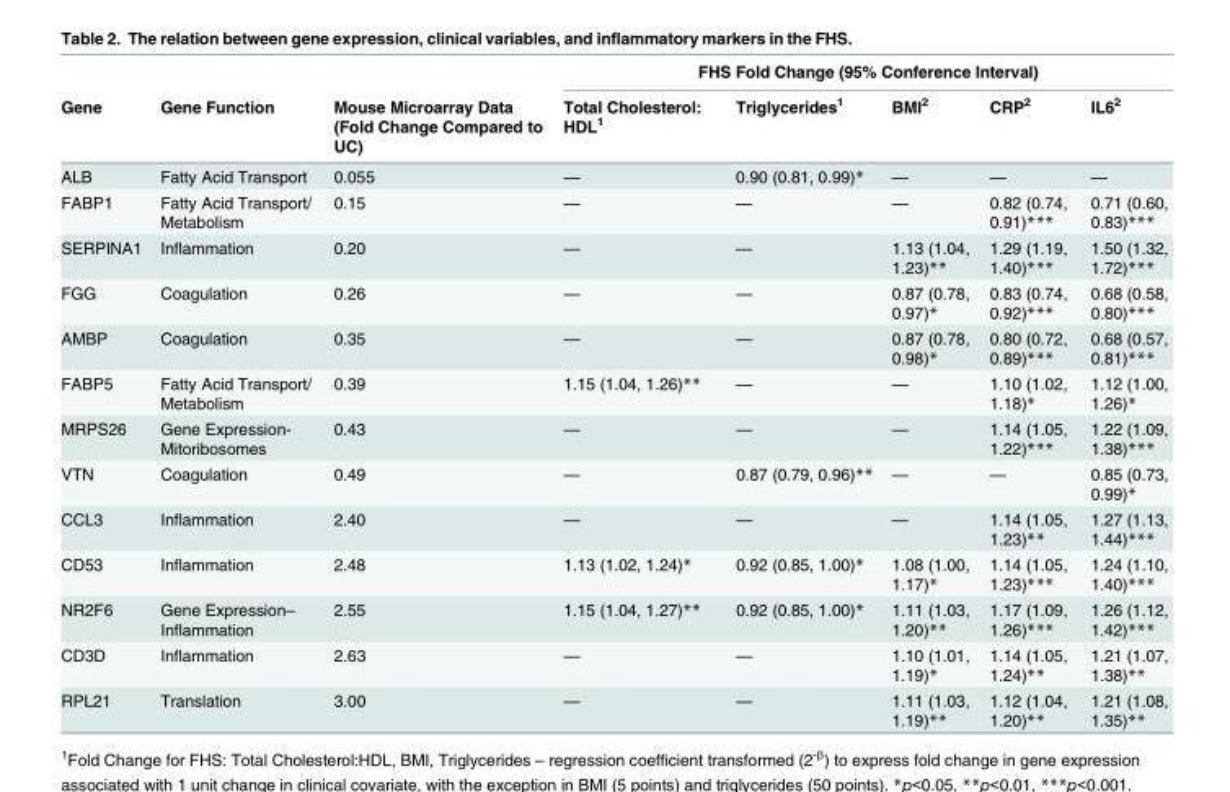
<table><thead><tr><td rowspan="2">Gene</td><td rowspan="2">Gene Function</td><td rowspan="2">Mouse Microarray Data (Fold Change Compared to UC)</td><td colspan="5">FHS Fold Change (95% Conference Interval)</td></tr><tr><td>Total Cholesterol: HDL<sup>1</sup></td><td>Triglycerides<sup>1</sup></td><td>BMI<sup>2</sup></td><td>CRP<sup>2</sup></td><td>IL6<sup>2</sup></td></tr></thead><tbody><tr><td>ALB</td><td>Fatty Acid Transport</td><td>0.055</td><td>—</td><td>0.90 (0.81, 0.99)*</td><td>—</td><td>—</td><td>—</td></tr><tr><td>FABP1</td><td>Fatty Acid Transport/ Metabolism</td><td>0.15</td><td>—</td><td>—</td><td>—</td><td>0.82 (0.74, 0.91)***</td><td>0.71 (0.60, 0.83)***</td></tr><tr><td>SERPINA1</td><td>Inflammation</td><td>0.20</td><td>—</td><td>—</td><td>1.13 (1.04, 1.23)**</td><td>1.29 (1.19, 1.40)***</td><td>1.50 (1.32, 1.72)***</td></tr><tr><td>FGG</td><td>Coagulation</td><td>0.26</td><td>—</td><td>—</td><td>0.87 (0.78, 0.97)*</td><td>0.83 (0.74, 0.92)***</td><td>0.68 (0.58, 0.80)***</td></tr><tr><td>AMBP</td><td>Coagulation</td><td>0.35</td><td>—</td><td>—</td><td>0.87 (0.78, 0.98)*</td><td>0.80 (0.72, 0.89)***</td><td>0.68 (0.57, 0.81)***</td></tr><tr><td>FABP5</td><td>Fatty Acid Transport/ Metabolism</td><td>0.39</td><td>1.15 (1.04, 1.26)**</td><td>—</td><td>—</td><td>1.10 (1.02, 1.18)*</td><td>1.12 (1.00, 1.26)*</td></tr><tr><td>MRPS26</td><td>Gene Expression- Mitoribosomes</td><td>0.43</td><td>—</td><td>—</td><td>—</td><td>1.14 (1.05, 1.22)***</td><td>1.22 (1.09, 1.38)***</td></tr><tr><td>VTN</td><td>Coagulation</td><td>0.49</td><td>—</td><td>0.87 (0.79, 0.96)**</td><td>—</td><td>—</td><td>0.85 (0.73, 0.99)*</td></tr><tr><td>CCL3</td><td>Inflammation</td><td>2.40</td><td>—</td><td>—</td><td>—</td><td>1.14 (1.05, 1.23)**</td><td>1.27 (1.13, 1.44)***</td></tr><tr><td>CD53</td><td>Inflammation</td><td>2.48</td><td>1.13 (1.02, 1.24)*</td><td>0.92 (0.85, 1.00)*</td><td>1.08 (1.00, 1.17)*</td><td>1.14 (1.05, 1.23)***</td><td>1.24 (1.10, 1.40)***</td></tr><tr><td>NR2F6</td><td>Gene Expression– Inflammation</td><td>2.55</td><td>1.15 (1.04, 1.27)**</td><td>0.92 (0.85, 1.00)*</td><td>1.11 (1.03, 1.20)**</td><td>1.17 (1.09, 1.26)***</td><td>1.26 (1.12, 1.42)***</td></tr><tr><td>CD3D</td><td>Inflammation</td><td>2.63</td><td>—</td><td>—</td><td>1.10 (1.01, 1.19)*</td><td>1.14 (1.05, 1.24)**</td><td>1.21 (1.07, 1.38)**</td></tr><tr><td>RPL21</td><td>Translation</td><td>3.00</td><td>—</td><td>—</td><td>1.11 (1.03, 1.19)**</td><td>1.12 (1.04, 1.20)**</td><td>1.21 (1.08, 1.35)**</td></tr></tbody></table>